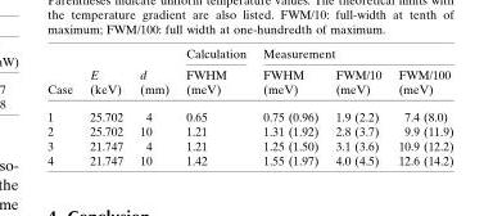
<table><thead><tr><td rowspan="2">Case</td><td rowspan="2">E (keV)</td><td rowspan="2">d (mm)</td><td rowspan="2">Calculation FWHM (meV)</td><td colspan="3">Measurement</td></tr><tr><td>FWHM (meV)</td><td>FWM/10 (meV)</td><td>FWM/100 (meV)</td></tr></thead><tbody><tr><td>1</td><td>25.702</td><td>4</td><td>0.65</td><td>0.75 (0.96)</td><td>1.9 (2.2)</td><td>7.4 (8.0)</td></tr><tr><td>2</td><td>25.702</td><td>10</td><td>1.21</td><td>1.31 (1.92)</td><td>2.8 (3.7)</td><td>9.9 (11.9)</td></tr><tr><td>3</td><td>21.747</td><td>4</td><td>1.21</td><td>1.25 (1.50)</td><td>3.1 (3.6)</td><td>10.9 (12.2)</td></tr><tr><td>4</td><td>21.747</td><td>10</td><td>1.42</td><td>1.55 (1.97)</td><td>4.0 (4.5)</td><td>12.6 (14.2)</td></tr></tbody></table>